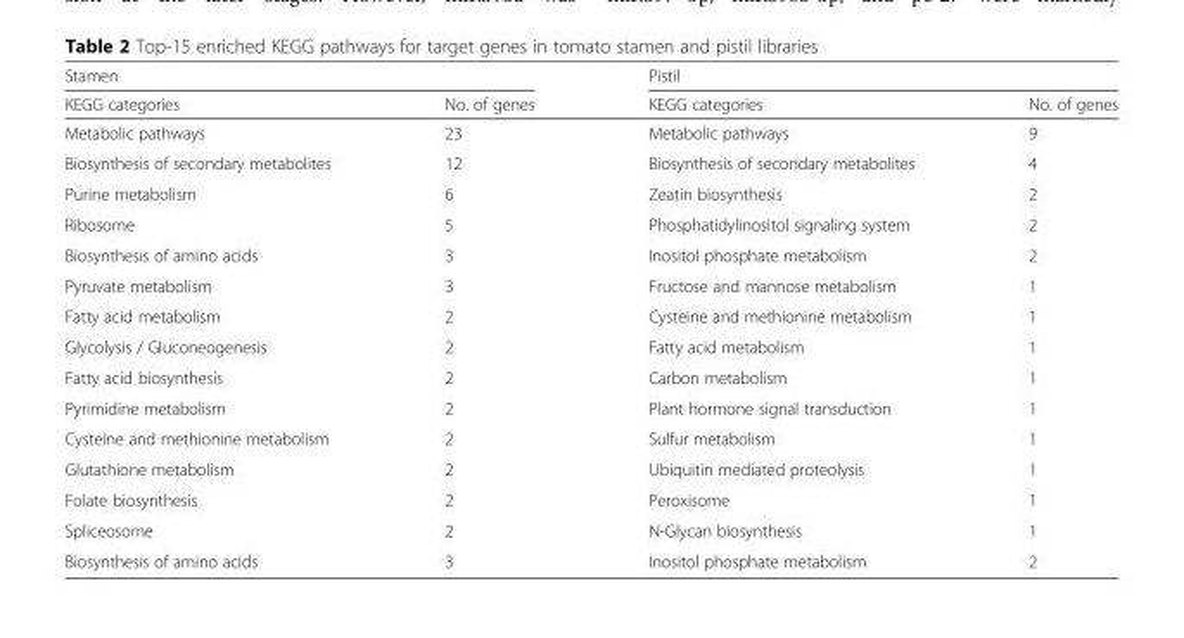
<table><thead><tr><td colspan="2">Stamen</td><td colspan="2">Pistil</td></tr><tr><td>KEGG categories</td><td>No. of genes</td><td>KEGG categories</td><td>No. of genes</td></tr></thead><tbody><tr><td>Metabolic pathways</td><td>23</td><td>Metabolic pathways</td><td>9</td></tr><tr><td>Biosynthesis of secondary metabolites</td><td>12</td><td>Biosynthesis of secondary metabolites</td><td>4</td></tr><tr><td>Purine metabolism</td><td>6</td><td>Zeatin biosynthesis</td><td>2</td></tr><tr><td>Ribosome</td><td>5</td><td>Phosphatidylinositol signaling system</td><td>2</td></tr><tr><td>Biosynthesis of amino acids</td><td>3</td><td>Inositol phosphate metabolism</td><td>2</td></tr><tr><td>Pyruvate metabolism</td><td>3</td><td>Fructose and mannose metabolism</td><td>1</td></tr><tr><td>Fatty acid metabolism</td><td>2</td><td>Cysteine and methionine metabolism</td><td>1</td></tr><tr><td>Glycolysis / Gluconeogenesis</td><td>2</td><td>Fatty acid metabolism</td><td>1</td></tr><tr><td>Fatty acid biosynthesis</td><td>2</td><td>Carbon metabolism</td><td>1</td></tr><tr><td>Pyrimidine metabolism</td><td>2</td><td>Plant hormone signal transduction</td><td>1</td></tr><tr><td>Cysteine and methionine metabolism</td><td>2</td><td>Sulfur metabolism</td><td>1</td></tr><tr><td>Glutathione metabolism</td><td>2</td><td>Ubiquitin mediated proteolysis</td><td>1</td></tr><tr><td>Folate biosynthesis</td><td>2</td><td>Peroxisome</td><td>1</td></tr><tr><td>Spliceosome</td><td>2</td><td>N-Glycan biosynthesis</td><td>1</td></tr><tr><td>Biosynthesis of amino acids</td><td>3</td><td>Inositol phosphate metabolism</td><td>2</td></tr></tbody></table>